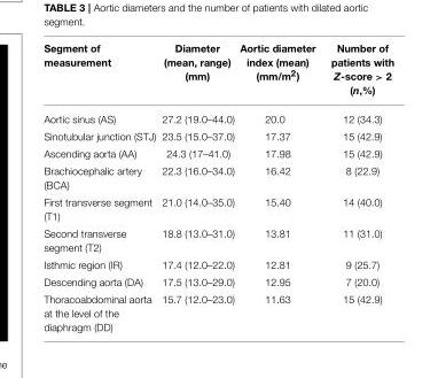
<table><thead><tr><td>Segment of measurement</td><td>Diameter (mean, range) (mm)</td><td>Aortic diameter index (mean) (mm/m<sup>2</sup>)</td><td>Number of patients with Z-score &gt; 2 (n,%)</td></tr></thead><tbody><tr><td>Aortic sinus (AS)</td><td>27.2 (19.0–44.0)</td><td>20.0</td><td>12 (34.3)</td></tr><tr><td>Sinotubular junction (STJ)</td><td>23.5 (15.0–37.0)</td><td>17.37</td><td>15 (42.9)</td></tr><tr><td>Ascending aorta (AA)</td><td>24.3 (17–41.0)</td><td>17.98</td><td>15 (42.9)</td></tr><tr><td>Brachiocephalic artery (BCA)</td><td>22.3 (16.0–34.0)</td><td>16.42</td><td>8 (22.9)</td></tr><tr><td>First transverse segment (T1)</td><td>21.0 (14.0–35.0)</td><td>15.40</td><td>14 (40.0)</td></tr><tr><td>Second transverse segment (T2)</td><td>18.8 (13.0–31.0)</td><td>13.81</td><td>11 (31.0)</td></tr><tr><td>Isthmic region (IR)</td><td>17.4 (12.0–22.0)</td><td>12.81</td><td>9 (25.7)</td></tr><tr><td>Descending aorta (DA)</td><td>17.5 (13.0–29.0)</td><td>12.95</td><td>7 (20.0)</td></tr><tr><td>Thoracoabdominal aorta at the level of the diaphragm (DD)</td><td>15.7 (12.0–23.0)</td><td>11.63</td><td>15 (42.9)</td></tr></tbody></table>